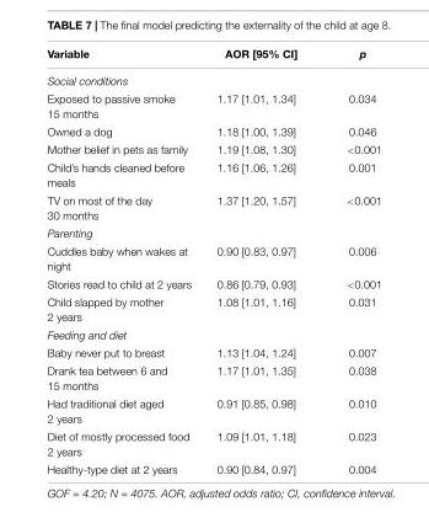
<table><thead><tr><td>Variable</td><td>AOR [95% CI]</td><td>p</td></tr></thead><tbody><tr><td colspan="3">Social conditions</td></tr><tr><td>Exposed to passive smoke 15 months</td><td>1.17 [1.01, 1.34]</td><td>0.034</td></tr><tr><td>Owned a dog</td><td>1.18 [1.00, 1.39]</td><td>0.046</td></tr><tr><td>Mother belief in pets as family</td><td>1.19 [1.08, 1.30]</td><td>&lt;0.001</td></tr><tr><td>Child’s hands cleaned before meals</td><td>1.16 [1.06, 1.26]</td><td>0.001</td></tr><tr><td>TV on most of the day 30 months</td><td>1.37 [1.20, 1.57]</td><td>&lt;0.001</td></tr><tr><td colspan="3">Parenting</td></tr><tr><td>Cuddles baby when wakes at night</td><td>0.90 [0.83, 0.97]</td><td>0.006</td></tr><tr><td>Stories read to child at 2 years</td><td>0.86 [0.79, 0.93]</td><td>&lt;0.001</td></tr><tr><td>Child slapped by mother 2 years</td><td>1.08 [1.01, 1.16]</td><td>0.031</td></tr><tr><td colspan="3">Feeding and diet</td></tr><tr><td>Baby never put to breast</td><td>1.13 [1.04, 1.24]</td><td>0.007</td></tr><tr><td>Drank tea between 6 and 15 months</td><td>1.17 [1.01, 1.35]</td><td>0.038</td></tr><tr><td>Had traditional diet aged 2 years</td><td>0.91 [0.85, 0.98]</td><td>0.010</td></tr><tr><td>Diet of mostly processed food 2 years</td><td>1.09 [1.01, 1.18]</td><td>0.023</td></tr><tr><td>Healthy-type diet at 2 years</td><td>0.90 [0.84, 0.97]</td><td>0.004</td></tr></tbody></table>